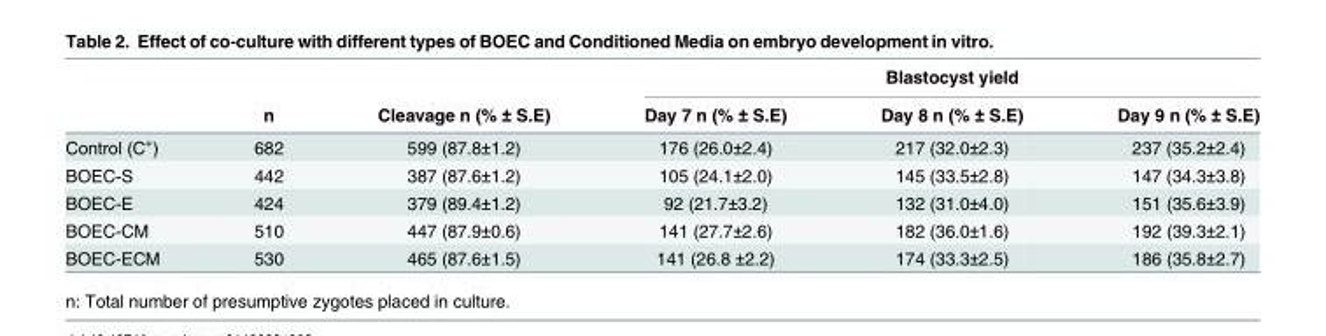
<table><thead><tr><td rowspan="2"></td><td rowspan="2">n</td><td rowspan="2">Cleavage n (% ± S.E)</td><td colspan="3">Blastocyst yield</td></tr><tr><td>Day 7 n (% ± S.E)</td><td>Day 8 n (% ± S.E)</td><td>Day 9 n (% ± S.E)</td></tr></thead><tbody><tr><td>Control (C<sup>+</sup>)</td><td>682</td><td>599 (87.8±1.2)</td><td>176 (26.0±2.4)</td><td>217 (32.0±2.3)</td><td>237 (35.2±2.4)</td></tr><tr><td>BOEC-S</td><td>442</td><td>387 (87.6±1.2)</td><td>105 (24.1±2.0)</td><td>145 (33.5±2.8)</td><td>147 (34.3±3.8)</td></tr><tr><td>BOEC-E</td><td>424</td><td>379 (89.4±1.2)</td><td>92 (21.7±3.2)</td><td>132 (31.0±4.0)</td><td>151 (35.6±3.9)</td></tr><tr><td>BOEC-CM</td><td>510</td><td>447 (87.9±0.6)</td><td>141 (27.7±2.6)</td><td>182 (36.0±1.6)</td><td>192 (39.3±2.1)</td></tr><tr><td>BOEC-ECM</td><td>530</td><td>465 (87.6±1.5)</td><td>141 (26.8 ±2.2)</td><td>174 (33.3±2.5)</td><td>186 (35.8±2.7)</td></tr></tbody></table>